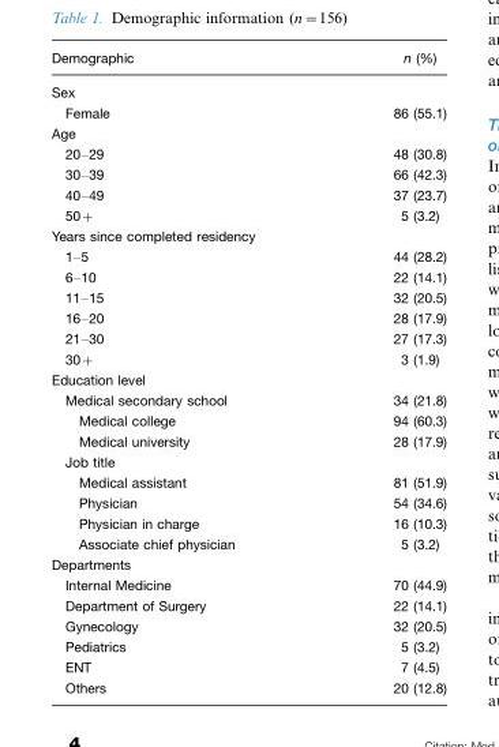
<table><thead><tr><td>Demographic</td><td>n (%)</td></tr></thead><tbody><tr><td colspan="2">Sex</td></tr><tr><td>Female</td><td>86 (55.1)</td></tr><tr><td colspan="2">Age</td></tr><tr><td>20–29</td><td>48 (30.8)</td></tr><tr><td>30–39</td><td>66 (42.3)</td></tr><tr><td>40–49</td><td>37 (23.7)</td></tr><tr><td>50+</td><td>5 (3.2)</td></tr><tr><td colspan="2">Years since completed residency</td></tr><tr><td>1–5</td><td>44 (28.2)</td></tr><tr><td>6–10</td><td>22 (14.1)</td></tr><tr><td>11–15</td><td>32 (20.5)</td></tr><tr><td>16–20</td><td>28 (17.9)</td></tr><tr><td>21–30</td><td>27 (17.3)</td></tr><tr><td>30+</td><td>3 (1.9)</td></tr><tr><td colspan="2">Education level</td></tr><tr><td>Medical secondary school</td><td>34 (21.8)</td></tr><tr><td>Medical college</td><td>94 (60.3)</td></tr><tr><td>Medical university</td><td>28 (17.9)</td></tr><tr><td colspan="2">Job title</td></tr><tr><td>Medical assistant</td><td>81 (51.9)</td></tr><tr><td>Physician</td><td>54 (34.6)</td></tr><tr><td>Physician in charge</td><td>16 (10.3)</td></tr><tr><td>Associate chief physician</td><td>5 (3.2)</td></tr><tr><td colspan="2">Departments</td></tr><tr><td>Internal Medicine</td><td>70 (44.9)</td></tr><tr><td>Department of Surgery</td><td>22 (14.1)</td></tr><tr><td>Gynecology</td><td>32 (20.5)</td></tr><tr><td>Pediatrics</td><td>5 (3.2)</td></tr><tr><td>ENT</td><td>7 (4.5)</td></tr><tr><td>Others</td><td>20 (12.8)</td></tr></tbody></table>